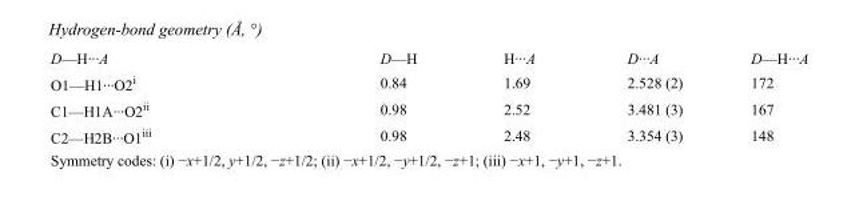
<table><tbody><tr><td>D—H···A</td><td>D—H</td><td>H···A</td><td>D···A</td><td>D—H···A</td></tr><tr><td>O1—H1···O2<sup>i</sup></td><td>0.84</td><td>1.69</td><td>2.528 (2)</td><td>172</td></tr><tr><td>C1—H1A···O2<sup>ii</sup></td><td>0.98</td><td>2.52</td><td>3.481 (3)</td><td>167</td></tr><tr><td>C2—H2B···O1<sup>iii</sup></td><td>0.98</td><td>2.48</td><td>3.354 (3)</td><td>148</td></tr></tbody></table>